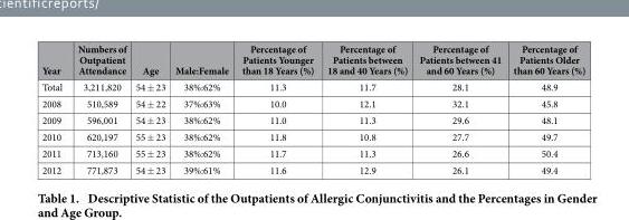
<table><thead><tr><td>Year</td><td>Numbers of Outpatient Attendance</td><td>Age</td><td>Male:Female</td><td>Percentage of Patients Younger than 18 Years (%)</td><td>Percentage of Patients between 18 and 40 Years (%)</td><td>Percentage of Patients between 41 and 60 Years (%)</td><td>Percentage of Patients Older than 60 Years (%)</td></tr></thead><tbody><tr><td>Total</td><td>3,211,820</td><td>54 ± 23</td><td>38%:62%</td><td>11.3</td><td>11.7</td><td>28.1</td><td>48.9</td></tr><tr><td>2008</td><td>510,589</td><td>54 ± 22</td><td>37%:63%</td><td>10.0</td><td>12.1</td><td>32.1</td><td>45.8</td></tr><tr><td>2009</td><td>596,001</td><td>54 ± 23</td><td>38%:62%</td><td>11.0</td><td>11.3</td><td>29.6</td><td>48.1</td></tr><tr><td>2010</td><td>620,197</td><td>55 ± 23</td><td>38%:62%</td><td>11.8</td><td>10.8</td><td>27.7</td><td>49.7</td></tr><tr><td>2011</td><td>713,160</td><td>55 ± 23</td><td>38%:62%</td><td>11.7</td><td>11.3</td><td>26.6</td><td>50.4</td></tr><tr><td>2012</td><td>771,873</td><td>54 ± 23</td><td>39%:61%</td><td>11.6</td><td>12.9</td><td>26.1</td><td>49.4</td></tr></tbody></table>